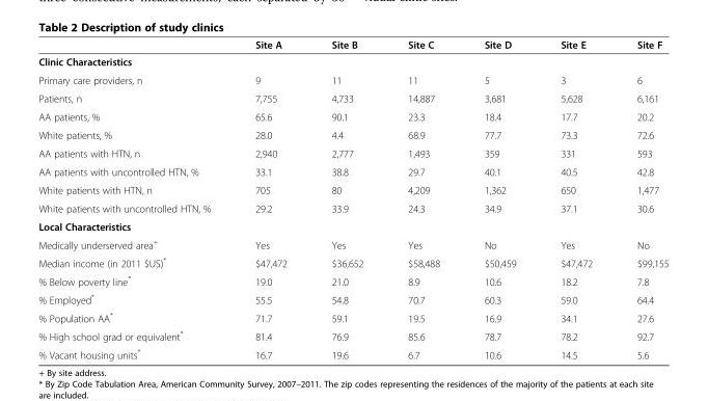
<table><thead><tr><td></td><td>Site A</td><td>Site B</td><td>Site C</td><td>Site D</td><td>Site E</td><td>Site F</td></tr></thead><tbody><tr><td colspan="7">Clinic Characteristics</td></tr><tr><td>Primary care providers, n</td><td>9</td><td>11</td><td>11</td><td>5</td><td>3</td><td>6</td></tr><tr><td>Patients, n</td><td>7,755</td><td>4,733</td><td>14,887</td><td>3,681</td><td>5,628</td><td>6,161</td></tr><tr><td>AA patients, %</td><td>65.6</td><td>90.1</td><td>23.3</td><td>18.4</td><td>17.7</td><td>20.2</td></tr><tr><td>White patients, %</td><td>28.0</td><td>4.4</td><td>68.9</td><td>77.7</td><td>73.3</td><td>72.6</td></tr><tr><td>AA patients with HTN, n</td><td>2,940</td><td>2,777</td><td>1,493</td><td>359</td><td>331</td><td>593</td></tr><tr><td>AA patients with uncontrolled HTN, %</td><td>33.1</td><td>38.8</td><td>29.7</td><td>40.1</td><td>40.5</td><td>42.8</td></tr><tr><td>White patients with HTN, n</td><td>705</td><td>80</td><td>4,209</td><td>1,362</td><td>650</td><td>1,477</td></tr><tr><td>White patients with uncontrolled HTN, %</td><td>29.2</td><td>33.9</td><td>24.3</td><td>34.9</td><td>37.1</td><td>30.6</td></tr><tr><td colspan="7">Local Characteristics</td></tr><tr><td>Medically underserved area<sup>+</sup></td><td>Yes</td><td>Yes</td><td>Yes</td><td>No</td><td>Yes</td><td>No</td></tr><tr><td>Median income (in 2011 $US)*</td><td>$47,472</td><td>$36,652</td><td>$58,488</td><td>$50,459</td><td>$47,472</td><td>$99,155</td></tr><tr><td>% Below poverty line*</td><td>19.0</td><td>21.0</td><td>8.9</td><td>10.6</td><td>18.2</td><td>7.8</td></tr><tr><td>% Employed*</td><td>55.5</td><td>54.8</td><td>70.7</td><td>60.3</td><td>59.0</td><td>64.4</td></tr><tr><td>% Population AA*</td><td>71.7</td><td>59.1</td><td>19.5</td><td>16.9</td><td>34.1</td><td>27.6</td></tr><tr><td>% High school grad or equivalent*</td><td>81.4</td><td>76.9</td><td>85.6</td><td>78.7</td><td>78.2</td><td>92.7</td></tr><tr><td>% Vacant housing units*</td><td>16.7</td><td>19.6</td><td>6.7</td><td>10.6</td><td>14.5</td><td>5.6</td></tr></tbody></table>